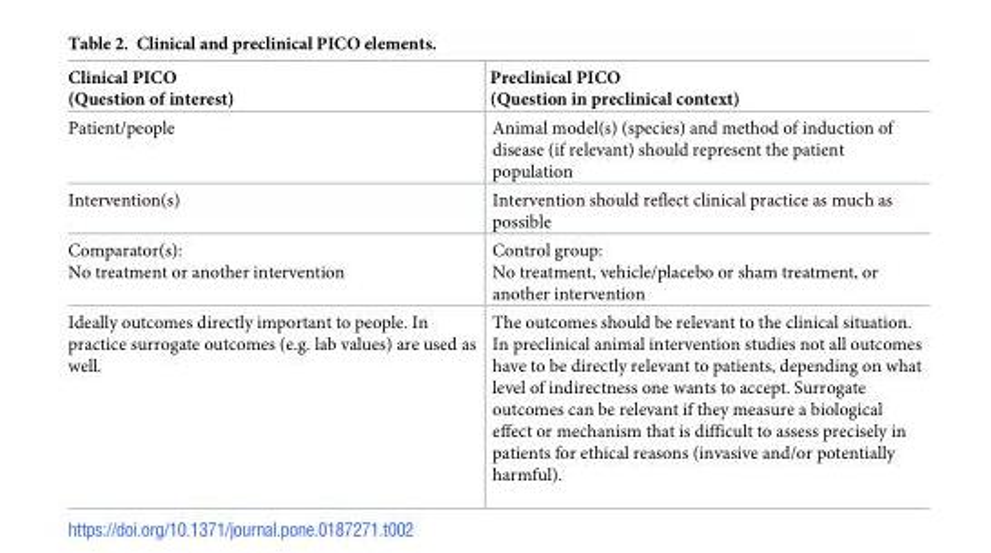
<table><thead><tr><td>Clinical PICO (Question of interest)</td><td>Preclinical PICO (Question in preclinical context)</td></tr></thead><tbody><tr><td>Patient/people</td><td>Animal model(s) (species) and method of induction of disease (if relevant) should represent the patient population</td></tr><tr><td>Intervention(s)</td><td>Intervention should reflect clinical practice as much as possible</td></tr><tr><td>Comparator(s): No treatment or another intervention</td><td>Control group: No treatment, vehicle/placebo or sham treatment, or another intervention</td></tr><tr><td>Ideally outcomes directly important to people. In practice surrogate outcomes (e.g. lab values) are used as well.</td><td>The outcomes should be relevant to the clinical situation. In preclinical animal intervention studies not all outcomes have to be directly relevant to patients, depending on what level of indirectness one wants to accept. Surrogate outcomes can be relevant if they measure a biological effect or mechanism that is difficult to assess precisely in patients for ethical reasons (invasive and/or potentially harmful).</td></tr></tbody></table>